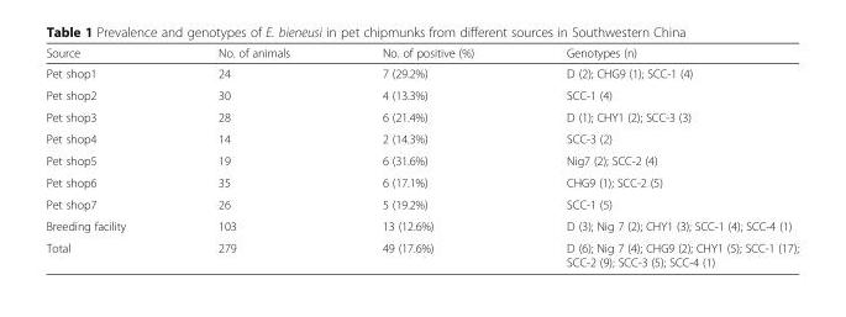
<table><thead><tr><td>Source</td><td>No. of animals</td><td>No. of positive (%)</td><td>Genotypes (n)</td></tr></thead><tbody><tr><td>Pet shop1</td><td>24</td><td>7 (29.2%)</td><td>D (2); CHG9 (1); SCC-1 (4)</td></tr><tr><td>Pet shop2</td><td>30</td><td>4 (13.3%)</td><td>SCC-1 (4)</td></tr><tr><td>Pet shop3</td><td>28</td><td>6 (21.4%)</td><td>D (1); CHY1 (2); SCC-3 (3)</td></tr><tr><td>Pet shop4</td><td>14</td><td>2 (14.3%)</td><td>SCC-3 (2)</td></tr><tr><td>Pet shop5</td><td>19</td><td>6 (31.6%)</td><td>Nig7 (2); SCC-2 (4)</td></tr><tr><td>Pet shop6</td><td>35</td><td>6 (17.1%)</td><td>CHG9 (1); SCC-2 (5)</td></tr><tr><td>Pet shop7</td><td>26</td><td>5 (19.2%)</td><td>SCC-1 (5)</td></tr><tr><td>Breeding facility</td><td>103</td><td>13 (12.6%)</td><td>D (3); Nig 7 (2); CHY1 (3); SCC-1 (4); SCC-4 (1)</td></tr><tr><td>Total</td><td>279</td><td>49 (17.6%)</td><td>D (6); Nig 7 (4); CHG9 (2); CHY1 (5); SCC-1 (17); SCC-2 (9); SCC-3 (5); SCC-4 (1)</td></tr></tbody></table>